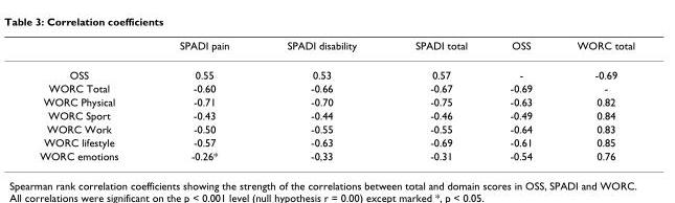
<table><thead><tr><td></td><td>SPADI pain</td><td>SPADI disability</td><td>SPADI total</td><td>OSS</td><td>WORC total</td></tr></thead><tbody><tr><td>OSS</td><td>0.55</td><td>0.53</td><td>0.57</td><td>-</td><td>-0.69</td></tr><tr><td>WORC Total</td><td>-0.60</td><td>-0.66</td><td>-0.67</td><td>-0.69</td><td>-</td></tr><tr><td>WORC Physical</td><td>-0.71</td><td>-0.70</td><td>-0.75</td><td>-0.63</td><td>0.82</td></tr><tr><td>WORC Sport</td><td>-0.43</td><td>-0.44</td><td>-0.46</td><td>-0.49</td><td>0.84</td></tr><tr><td>WORC Work</td><td>-0.50</td><td>-0.55</td><td>-0.55</td><td>-0.64</td><td>0.83</td></tr><tr><td>WORC lifestyle</td><td>-0.57</td><td>-0.63</td><td>-0.69</td><td>-0.61</td><td>0.85</td></tr><tr><td>WORC emotions</td><td>-0.26*</td><td>-0,33</td><td>-0.31</td><td>-0.54</td><td>0.76</td></tr></tbody></table>